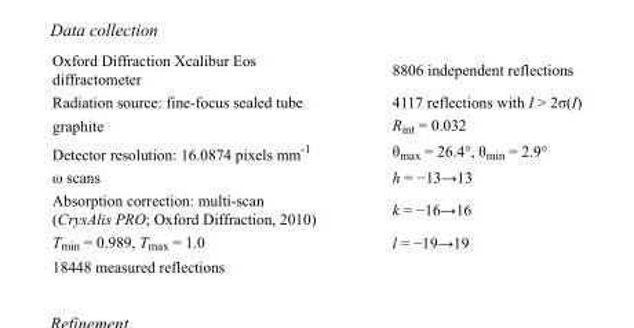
<table><tbody><tr><td>Oxford Diffraction Xcalibur Eos diffractometer</td><td>8806 independent reflections</td></tr><tr><td>Radiation source: fine-focus sealed tube</td><td>4117 reflections with I &gt; 2σ(I)</td></tr><tr><td>graphite</td><td>R<sub>int</sub> = 0.032</td></tr><tr><td>Detector resolution: 16.0874 pixels mm<sup>-1</sup></td><td>θ<sub>max</sub> = 26.4°, θ<sub>min</sub> = 2.9°</td></tr><tr><td>ω scans</td><td>h = −13→13</td></tr><tr><td>Absorption correction: multi-scan (CrysAlis PRO; Oxford Diffraction, 2010)</td><td>k = −16→16</td></tr><tr><td>T<sub>min</sub> = 0.989, T<sub>max</sub> = 1.0</td><td>l = −19→19</td></tr><tr><td>18448 measured reflections</td><td></td></tr></tbody></table>